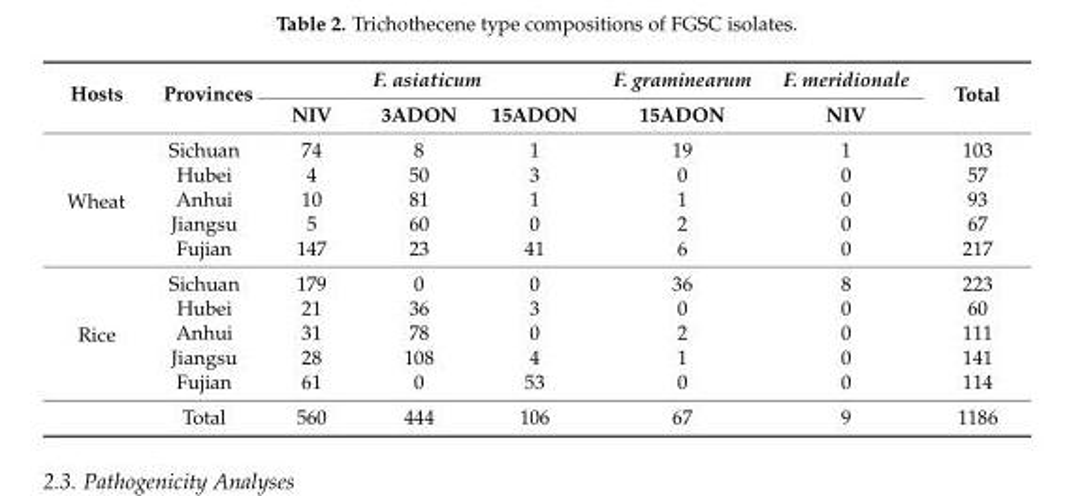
<table><thead><tr><td rowspan="2">Hosts</td><td rowspan="2">Provinces</td><td colspan="3">F. asiaticum</td><td rowspan="2">F. graminearum 15ADON</td><td rowspan="2">F. meridionale NIV</td><td rowspan="2">Total</td></tr><tr><td>NIV</td><td>3ADON</td><td>15ADON</td></tr></thead><tbody><tr><td rowspan="5">Wheat</td><td>Sichuan</td><td>74</td><td>8</td><td>1</td><td>19</td><td>1</td><td>103</td></tr><tr><td>Hubei</td><td>4</td><td>50</td><td>3</td><td>0</td><td>0</td><td>57</td></tr><tr><td>Anhui</td><td>10</td><td>81</td><td>1</td><td>1</td><td>0</td><td>93</td></tr><tr><td>Jiangsu</td><td>5</td><td>60</td><td>0</td><td>2</td><td>0</td><td>67</td></tr><tr><td>Fujian</td><td>147</td><td>23</td><td>41</td><td>6</td><td>0</td><td>217</td></tr><tr><td rowspan="6">Rice</td><td>Sichuan</td><td>179</td><td>0</td><td>0</td><td>36</td><td>8</td><td>223</td></tr><tr><td>Hubei</td><td>21</td><td>36</td><td>3</td><td>0</td><td>0</td><td>60</td></tr><tr><td>Anhui</td><td>31</td><td>78</td><td>0</td><td>2</td><td>0</td><td>111</td></tr><tr><td>Jiangsu</td><td>28</td><td>108</td><td>4</td><td>1</td><td>0</td><td>141</td></tr><tr><td>Fujian</td><td>61</td><td>0</td><td>53</td><td>0</td><td>0</td><td>114</td></tr><tr><td>Total</td><td>560</td><td>444</td><td>106</td><td>67</td><td>9</td><td>1186</td></tr></tbody></table>